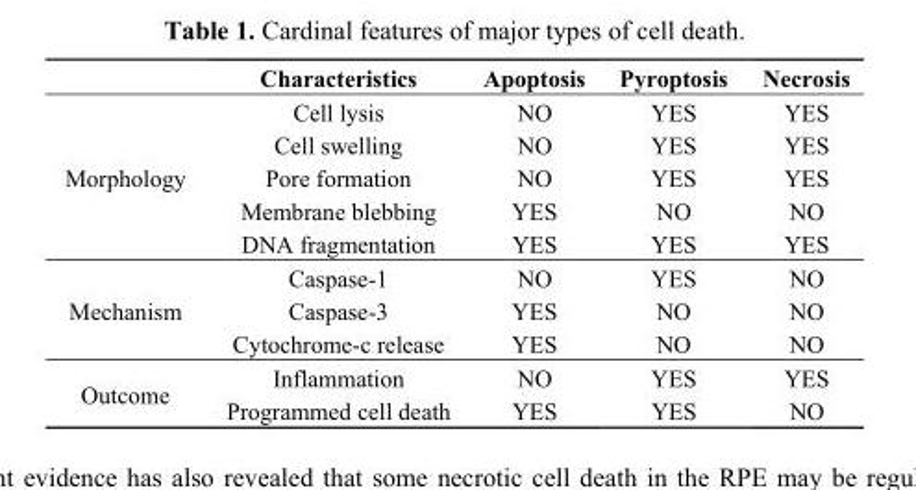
<table><thead><tr><td></td><td>Characteristics</td><td>Apoptosis</td><td>Pyroptosis</td><td>Necrosis</td></tr></thead><tbody><tr><td rowspan="5">Morphology</td><td>Cell lysis</td><td>NO</td><td>YES</td><td>YES</td></tr><tr><td>Cell swelling</td><td>NO</td><td>YES</td><td>YES</td></tr><tr><td>Pore formation</td><td>NO</td><td>YES</td><td>YES</td></tr><tr><td>Membrane blebbing</td><td>YES</td><td>NO</td><td>NO</td></tr><tr><td>DNA fragmentation</td><td>YES</td><td>YES</td><td>YES</td></tr><tr><td rowspan="3">Mechanism</td><td>Caspase-1</td><td>NO</td><td>YES</td><td>NO</td></tr><tr><td>Caspase-3</td><td>YES</td><td>NO</td><td>NO</td></tr><tr><td>Cytochrome-c release</td><td>YES</td><td>NO</td><td>NO</td></tr><tr><td rowspan="2">Outcome</td><td>Inflammation</td><td>NO</td><td>YES</td><td>YES</td></tr><tr><td>Programmed cell death</td><td>YES</td><td>YES</td><td>NO</td></tr></tbody></table>